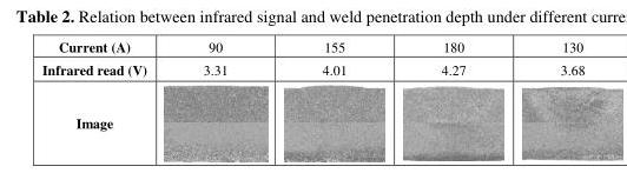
<table><tbody><tr><td>Current (A)</td><td>90</td><td>155</td><td>180</td><td>130</td></tr><tr><td>Infrared read (V)</td><td>3.31</td><td>4.01</td><td>4.27</td><td>3.68</td></tr><tr><td>Image</td><td></td><td></td><td></td><td></td></tr></tbody></table>